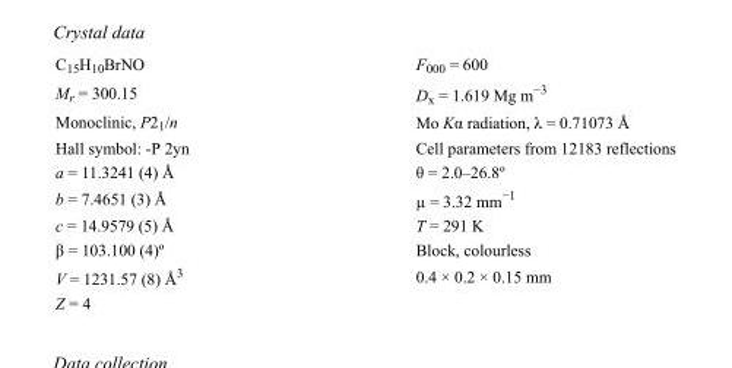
<table><tbody><tr><td>C<sub>15</sub>H<sub>10</sub>BrNO</td><td>F000 = 600</td></tr><tr><td>M<sub>r</sub> = 300.15</td><td>D<sub>x</sub> = 1.619 Mg m<sup>−3</sup></td></tr><tr><td>Monoclinic, P2<sub>1</sub>/n</td><td>Mo Kα radiation, λ = 0.71073 Å</td></tr><tr><td>Hall symbol: -P 2yn</td><td>Cell parameters from 12183 reflections</td></tr><tr><td>a = 11.3241 (4) Å</td><td>θ = 2.0–26.8º</td></tr><tr><td>b = 7.4651 (3) Å</td><td>µ = 3.32 mm<sup>−1</sup></td></tr><tr><td>c = 14.9579 (5) Å</td><td>T = 291 K</td></tr><tr><td>β = 103.100 (4)º</td><td>Block, colourless</td></tr><tr><td>V = 1231.57 (8) Å<sup>3</sup></td><td>0.4 × 0.2 × 0.15 mm</td></tr><tr><td>Z = 4</td><td></td></tr></tbody></table>